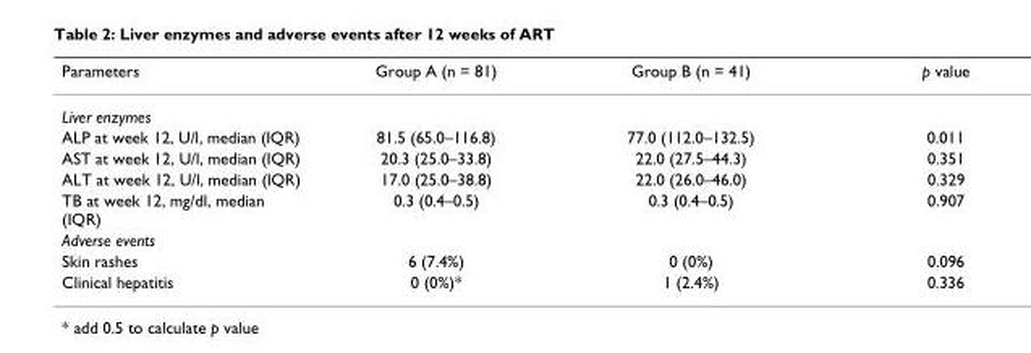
<table><thead><tr><td>Parameters</td><td>Group A (n = 81)</td><td>Group B (n = 41)</td><td>p value</td></tr></thead><tbody><tr><td colspan="4">Liver enzymes</td></tr><tr><td>ALP at week 12, U/l, median (IQR)</td><td>81.5 (65.0–116.8)</td><td>77.0 (112.0–132.5)</td><td>0.011</td></tr><tr><td>AST at week 12, U/l, median (IQR)</td><td>20.3 (25.0–33.8)</td><td>22.0 (27.5–44.3)</td><td>0.351</td></tr><tr><td>ALT at week 12, U/l, median (IQR)</td><td>17.0 (25.0–38.8)</td><td>22.0 (26.0–46.0)</td><td>0.329</td></tr><tr><td>TB at week 12, mg/dl, median (IQR)</td><td>0.3 (0.4–0.5)</td><td>0.3 (0.4–0.5)</td><td>0.907</td></tr><tr><td colspan="4">Adverse events</td></tr><tr><td>Skin rashes</td><td>6 (7.4%)</td><td>0 (0%)</td><td>0.096</td></tr><tr><td>Clinical hepatitis</td><td>0 (0%)*</td><td>1 (2.4%)</td><td>0.336</td></tr></tbody></table>